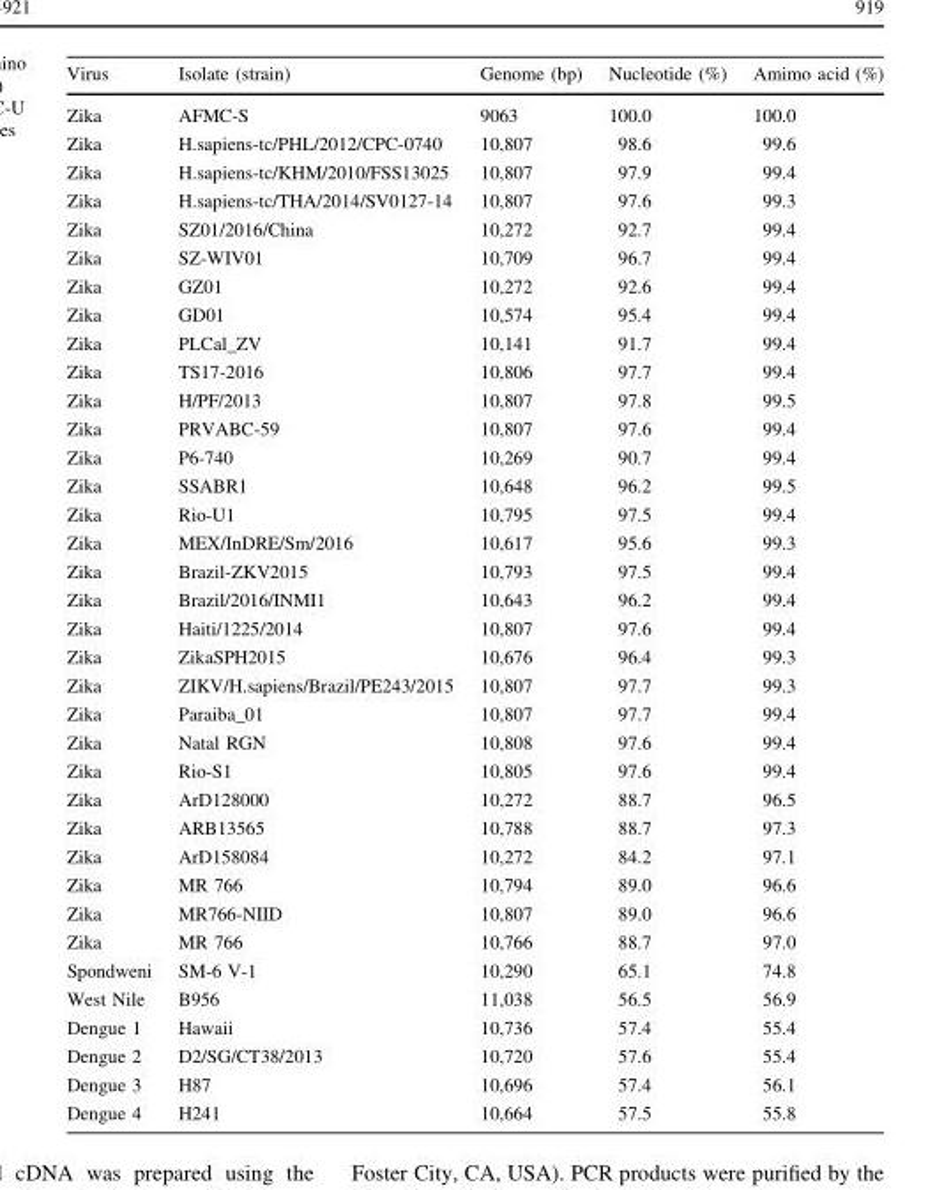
<table><thead><tr><td>Virus</td><td>Isolate (strain)</td><td>Genome (bp)</td><td>Nucleotide (%)</td><td>Amimo acid (%)</td></tr></thead><tbody><tr><td>Zika</td><td>AFMC-S</td><td>9063</td><td>100.0</td><td>100.0</td></tr><tr><td>Zika</td><td>H.sapiens-tc/PHL/2012/CPC-0740</td><td>10,807</td><td>98.6</td><td>99.6</td></tr><tr><td>Zika</td><td>H.sapiens-tc/KHM/2010/FSS13025</td><td>10,807</td><td>97.9</td><td>99.4</td></tr><tr><td>Zika</td><td>H.sapiens-tc/THA/2014/SV0127-14</td><td>10,807</td><td>97.6</td><td>99.3</td></tr><tr><td>Zika</td><td>SZ01/2016/China</td><td>10,272</td><td>92.7</td><td>99.4</td></tr><tr><td>Zika</td><td>SZ-WIV01</td><td>10,709</td><td>96.7</td><td>99.4</td></tr><tr><td>Zika</td><td>GZ01</td><td>10,272</td><td>92.6</td><td>99.4</td></tr><tr><td>Zika</td><td>GD01</td><td>10,574</td><td>95.4</td><td>99.4</td></tr><tr><td>Zika</td><td>PLCal_ZV</td><td>10,141</td><td>91.7</td><td>99.4</td></tr><tr><td>Zika</td><td>TS17-2016</td><td>10,806</td><td>97.7</td><td>99.4</td></tr><tr><td>Zika</td><td>H/PF/2013</td><td>10,807</td><td>97.8</td><td>99.5</td></tr><tr><td>Zika</td><td>PRVABC-59</td><td>10,807</td><td>97.6</td><td>99.4</td></tr><tr><td>Zika</td><td>P6-740</td><td>10,269</td><td>90.7</td><td>99.4</td></tr><tr><td>Zika</td><td>SSABR1</td><td>10,648</td><td>96.2</td><td>99.5</td></tr><tr><td>Zika</td><td>Rio-U1</td><td>10,795</td><td>97.5</td><td>99.4</td></tr><tr><td>Zika</td><td>MEX/InDRE/Sm/2016</td><td>10,617</td><td>95.6</td><td>99.3</td></tr><tr><td>Zika</td><td>Brazil-ZKV2015</td><td>10,793</td><td>97.5</td><td>99.4</td></tr><tr><td>Zika</td><td>Brazil/2016/INMI1</td><td>10,643</td><td>96.2</td><td>99.4</td></tr><tr><td>Zika</td><td>Haiti/1225/2014</td><td>10,807</td><td>97.6</td><td>99.4</td></tr><tr><td>Zika</td><td>ZikaSPH2015</td><td>10,676</td><td>96.4</td><td>99.3</td></tr><tr><td>Zika</td><td>ZIKV/H.sapiens/Brazil/PE243/2015</td><td>10,807</td><td>97.7</td><td>99.3</td></tr><tr><td>Zika</td><td>Paraiba_01</td><td>10,807</td><td>97.7</td><td>99.4</td></tr><tr><td>Zika</td><td>Natal RGN</td><td>10,808</td><td>97.6</td><td>99.4</td></tr><tr><td>Zika</td><td>Rio-S1</td><td>10,805</td><td>97.6</td><td>99.4</td></tr><tr><td>Zika</td><td>ArD128000</td><td>10,272</td><td>88.7</td><td>96.5</td></tr><tr><td>Zika</td><td>ARB13565</td><td>10,788</td><td>88.7</td><td>97.3</td></tr><tr><td>Zika</td><td>ArD158084</td><td>10,272</td><td>84.2</td><td>97.1</td></tr><tr><td>Zika</td><td>MR 766</td><td>10,794</td><td>89.0</td><td>96.6</td></tr><tr><td>Zika</td><td>MR766-NIID</td><td>10,807</td><td>89.0</td><td>96.6</td></tr><tr><td>Zika</td><td>MR 766</td><td>10,766</td><td>88.7</td><td>97.0</td></tr><tr><td>Spondweni</td><td>SM-6 V-1</td><td>10,290</td><td>65.1</td><td>74.8</td></tr><tr><td>West Nile</td><td>B956</td><td>11,038</td><td>56.5</td><td>56.9</td></tr><tr><td>Dengue 1</td><td>Hawaii</td><td>10,736</td><td>57.4</td><td>55.4</td></tr><tr><td>Dengue 2</td><td>D2/SG/CT38/2013</td><td>10,720</td><td>57.6</td><td>55.4</td></tr><tr><td>Dengue 3</td><td>H87</td><td>10,696</td><td>57.4</td><td>56.1</td></tr><tr><td>Dengue 4</td><td>H241</td><td>10,664</td><td>57.5</td><td>55.8</td></tr></tbody></table>